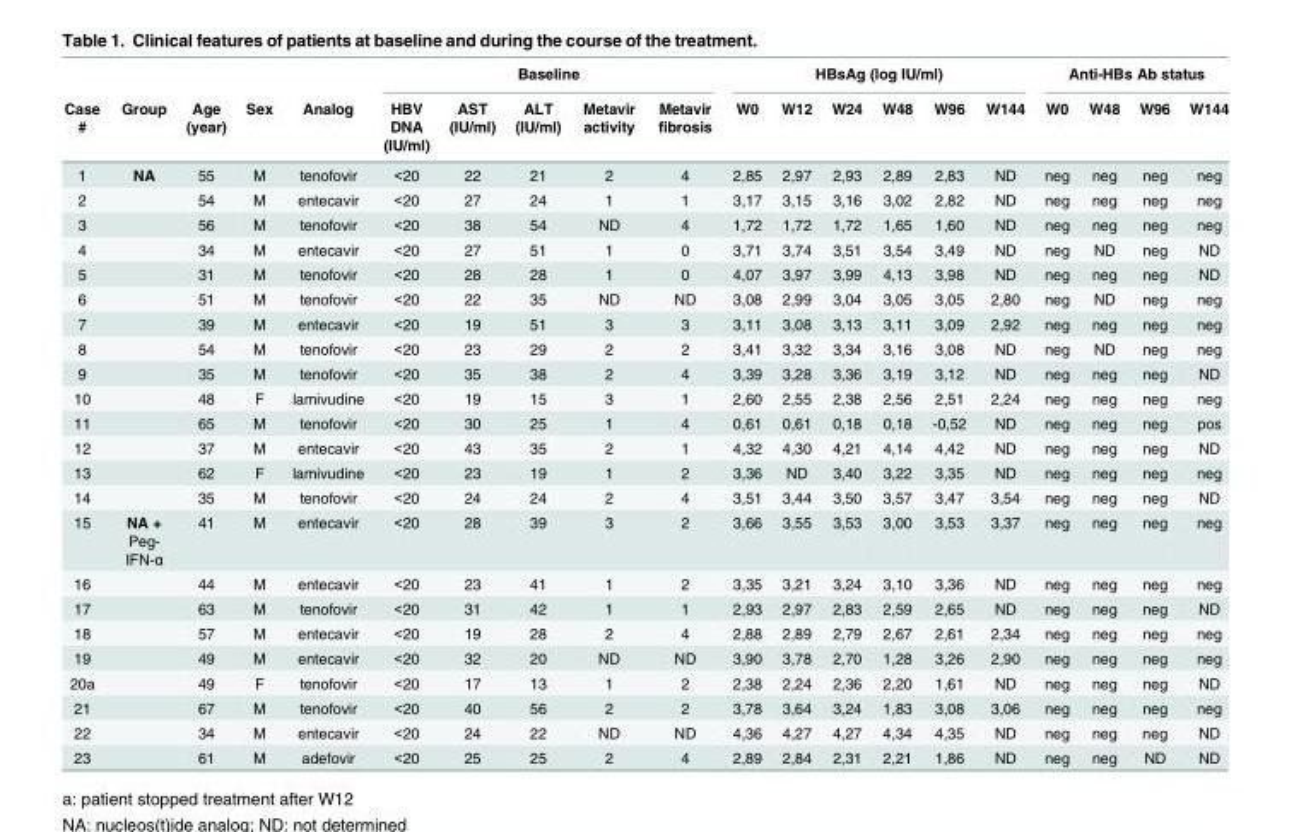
<table><thead><tr><td rowspan="2">Case #</td><td rowspan="2">Group</td><td rowspan="2">Age (year)</td><td rowspan="2">Sex</td><td rowspan="2">Analog</td><td colspan="5">Baseline</td><td colspan="6">HBsAg (log IU/ml)</td><td colspan="4">Anti-HBs Ab status</td></tr><tr><td>HBV DNA (IU/ml)</td><td>AST (IU/ml)</td><td>ALT (IU/ml)</td><td>Metavir activity</td><td>Metavir fibrosis</td><td>W0</td><td>W12</td><td>W24</td><td>W48</td><td>W96</td><td>W144</td><td>W0</td><td>W48</td><td>W96</td><td>W144</td></tr></thead><tbody><tr><td>1</td><td>NA</td><td>55</td><td>M</td><td>tenofovir</td><td>&lt;20</td><td>22</td><td>21</td><td>2</td><td>4</td><td>2,85</td><td>2,97</td><td>2,93</td><td>2,89</td><td>2,83</td><td>ND</td><td>neg</td><td>neg</td><td>neg</td><td>neg</td></tr><tr><td>2</td><td></td><td>54</td><td>M</td><td>entecavir</td><td>&lt;20</td><td>27</td><td>24</td><td>1</td><td>1</td><td>3,17</td><td>3,15</td><td>3,16</td><td>3,02</td><td>2,82</td><td>ND</td><td>neg</td><td>neg</td><td>neg</td><td>neg</td></tr><tr><td>3</td><td></td><td>56</td><td>M</td><td>tenofovir</td><td>&lt;20</td><td>38</td><td>54</td><td>ND</td><td>4</td><td>1,72</td><td>1,72</td><td>1,72</td><td>1,65</td><td>1,60</td><td>ND</td><td>neg</td><td>neg</td><td>neg</td><td>neg</td></tr><tr><td>4</td><td></td><td>34</td><td>M</td><td>entecavir</td><td>&lt;20</td><td>27</td><td>51</td><td>1</td><td>0</td><td>3,71</td><td>3,74</td><td>3,51</td><td>3,54</td><td>3,49</td><td>ND</td><td>neg</td><td>ND</td><td>neg</td><td>ND</td></tr><tr><td>5</td><td></td><td>31</td><td>M</td><td>tenofovir</td><td>&lt;20</td><td>28</td><td>28</td><td>1</td><td>0</td><td>4,07</td><td>3,97</td><td>3,99</td><td>4,13</td><td>3,98</td><td>ND</td><td>neg</td><td>neg</td><td>neg</td><td>ND</td></tr><tr><td>6</td><td></td><td>51</td><td>M</td><td>tenofovir</td><td>&lt;20</td><td>22</td><td>35</td><td>ND</td><td>ND</td><td>3,08</td><td>2,99</td><td>3,04</td><td>3,05</td><td>3,05</td><td>2,80</td><td>neg</td><td>ND</td><td>neg</td><td>neg</td></tr><tr><td>7</td><td></td><td>39</td><td>M</td><td>entecavir</td><td>&lt;20</td><td>19</td><td>51</td><td>3</td><td>3</td><td>3,11</td><td>3,08</td><td>3,13</td><td>3,11</td><td>3,09</td><td>2,92</td><td>neg</td><td>neg</td><td>neg</td><td>neg</td></tr><tr><td>8</td><td></td><td>54</td><td>M</td><td>tenofovir</td><td>&lt;20</td><td>23</td><td>29</td><td>2</td><td>2</td><td>3,41</td><td>3,32</td><td>3,34</td><td>3,16</td><td>3,08</td><td>ND</td><td>neg</td><td>ND</td><td>neg</td><td>neg</td></tr><tr><td>9</td><td></td><td>35</td><td>M</td><td>tenofovir</td><td>&lt;20</td><td>35</td><td>38</td><td>2</td><td>4</td><td>3,39</td><td>3,28</td><td>3,36</td><td>3,19</td><td>3,12</td><td>ND</td><td>neg</td><td>neg</td><td>neg</td><td>ND</td></tr><tr><td>10</td><td></td><td>48</td><td>F</td><td>lamivudine</td><td>&lt;20</td><td>19</td><td>15</td><td>3</td><td>1</td><td>2,60</td><td>2,55</td><td>2,38</td><td>2,56</td><td>2,51</td><td>2,24</td><td>neg</td><td>neg</td><td>neg</td><td>neg</td></tr><tr><td>11</td><td></td><td>65</td><td>M</td><td>tenofovir</td><td>&lt;20</td><td>30</td><td>25</td><td>1</td><td>4</td><td>0,61</td><td>0,61</td><td>0,18</td><td>0,18</td><td>-0,52</td><td>ND</td><td>neg</td><td>neg</td><td>neg</td><td>pos</td></tr><tr><td>12</td><td></td><td>37</td><td>M</td><td>entecavir</td><td>&lt;20</td><td>43</td><td>35</td><td>2</td><td>1</td><td>4,32</td><td>4,30</td><td>4,21</td><td>4,14</td><td>4,42</td><td>ND</td><td>neg</td><td>neg</td><td>neg</td><td>ND</td></tr><tr><td>13</td><td></td><td>62</td><td>F</td><td>lamivudine</td><td>&lt;20</td><td>23</td><td>19</td><td>1</td><td>2</td><td>3,36</td><td>ND</td><td>3,40</td><td>3,22</td><td>3,35</td><td>ND</td><td>neg</td><td>neg</td><td>neg</td><td>neg</td></tr><tr><td>14</td><td></td><td>35</td><td>M</td><td>tenofovir</td><td>&lt;20</td><td>24</td><td>24</td><td>2</td><td>4</td><td>3,51</td><td>3,44</td><td>3,50</td><td>3,57</td><td>3,47</td><td>3,54</td><td>neg</td><td>neg</td><td>neg</td><td>ND</td></tr><tr><td>15</td><td>NA + Peg- IFN-α</td><td>41</td><td>M</td><td>entecavir</td><td>&lt;20</td><td>28</td><td>39</td><td>3</td><td>2</td><td>3,66</td><td>3,55</td><td>3,53</td><td>3,00</td><td>3,53</td><td>3,37</td><td>neg</td><td>neg</td><td>neg</td><td>neg</td></tr><tr><td>16</td><td></td><td>44</td><td>M</td><td>entecavir</td><td>&lt;20</td><td>23</td><td>41</td><td>1</td><td>2</td><td>3,35</td><td>3,21</td><td>3,24</td><td>3,10</td><td>3,36</td><td>ND</td><td>neg</td><td>neg</td><td>neg</td><td>neg</td></tr><tr><td>17</td><td></td><td>63</td><td>M</td><td>tenofovir</td><td>&lt;20</td><td>31</td><td>42</td><td>1</td><td>1</td><td>2,93</td><td>2,97</td><td>2,83</td><td>2,59</td><td>2,65</td><td>ND</td><td>neg</td><td>neg</td><td>neg</td><td>ND</td></tr><tr><td>18</td><td></td><td>57</td><td>M</td><td>entecavir</td><td>&lt;20</td><td>19</td><td>28</td><td>2</td><td>4</td><td>2,88</td><td>2,89</td><td>2,79</td><td>2,67</td><td>2,61</td><td>2,34</td><td>neg</td><td>neg</td><td>neg</td><td>neg</td></tr><tr><td>19</td><td></td><td>49</td><td>M</td><td>entecavir</td><td>&lt;20</td><td>32</td><td>20</td><td>ND</td><td>ND</td><td>3,90</td><td>3,78</td><td>2,70</td><td>1,28</td><td>3,26</td><td>2,90</td><td>neg</td><td>neg</td><td>neg</td><td>neg</td></tr><tr><td>20<sup>a</sup></td><td></td><td>49</td><td>F</td><td>tenofovir</td><td>&lt;20</td><td>17</td><td>13</td><td>1</td><td>2</td><td>2,38</td><td>2,24</td><td>2,36</td><td>2,20</td><td>1,61</td><td>ND</td><td>neg</td><td>neg</td><td>neg</td><td>ND</td></tr><tr><td>21</td><td></td><td>67</td><td>M</td><td>tenofovir</td><td>&lt;20</td><td>40</td><td>56</td><td>2</td><td>2</td><td>3,78</td><td>3,64</td><td>3,24</td><td>1,83</td><td>3,08</td><td>3,06</td><td>neg</td><td>neg</td><td>neg</td><td>neg</td></tr><tr><td>22</td><td></td><td>34</td><td>M</td><td>entecavir</td><td>&lt;20</td><td>24</td><td>22</td><td>ND</td><td>ND</td><td>4,36</td><td>4,27</td><td>4,27</td><td>4,34</td><td>4,35</td><td>ND</td><td>neg</td><td>neg</td><td>neg</td><td>ND</td></tr><tr><td>23</td><td></td><td>61</td><td>M</td><td>adefovir</td><td>&lt;20</td><td>25</td><td>25</td><td>2</td><td>4</td><td>2,89</td><td>2,84</td><td>2,31</td><td>2,21</td><td>1,86</td><td>ND</td><td>neg</td><td>neg</td><td>ND</td><td>ND</td></tr></tbody></table>